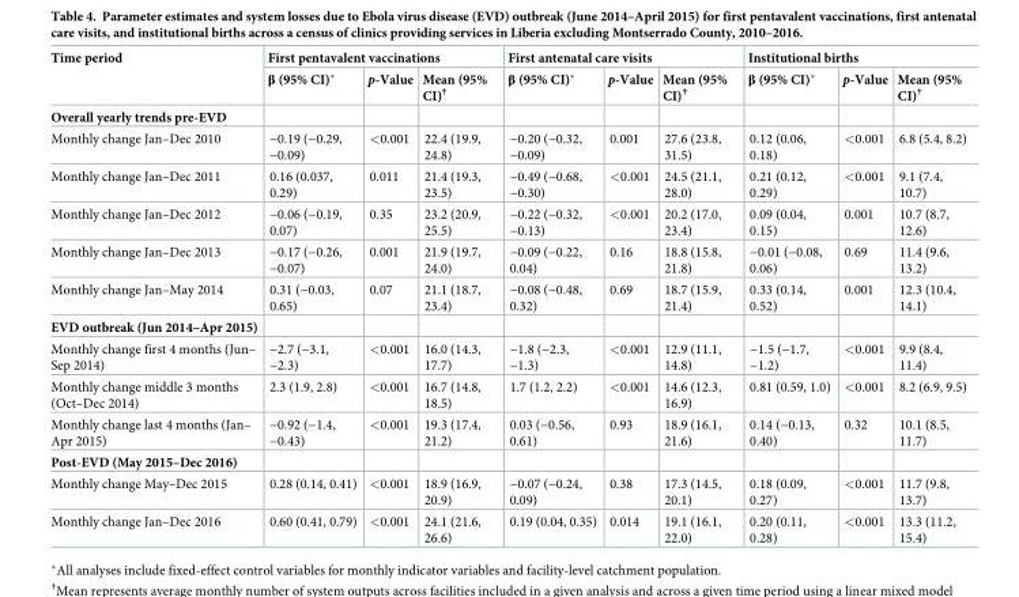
<table><thead><tr><td rowspan="2">Time period</td><td colspan="3">First pentavalent vaccinations</td><td colspan="3">First antenatal care visits</td><td colspan="3">Institutional births</td></tr><tr><td>β (95% CI)*</td><td>p-Value</td><td>Mean (95% CI)<sup>†</sup></td><td>β (95% CI)*</td><td>p-Value</td><td>Mean (95% CI)<sup>†</sup></td><td>β (95% CI)*</td><td>p-Value</td><td>Mean (95% CI)<sup>†</sup></td></tr></thead><tbody><tr><td colspan="10">Overall yearly trends pre-EVD</td></tr><tr><td>Monthly change Jan–Dec 2010</td><td>−0.19 (−0.29, −0.09)</td><td>&lt;0.001</td><td>22.4 (19.9, 24.8)</td><td>−0.20 (−0.32, −0.09)</td><td>0.001</td><td>27.6 (23.8, 31.5)</td><td>0.12 (0.06, 0.18)</td><td>&lt;0.001</td><td>6.8 (5.4, 8.2)</td></tr><tr><td>Monthly change Jan–Dec 2011</td><td>0.16 (0.037, 0.29)</td><td>0.011</td><td>21.4 (19.3, 23.5)</td><td>−0.49 (−0.68, −0.30)</td><td>&lt;0.001</td><td>24.5 (21.1, 28.0)</td><td>0.21 (0.12, 0.29)</td><td>&lt;0.001</td><td>9.1 (7.4, 10.7)</td></tr><tr><td>Monthly change Jan–Dec 2012</td><td>−0.06 (−0.19, 0.07)</td><td>0.35</td><td>23.2 (20.9, 25.5)</td><td>−0.22 (−0.32, −0.13)</td><td>&lt;0.001</td><td>20.2 (17.0, 23.4)</td><td>0.09 (0.04, 0.15)</td><td>0.001</td><td>10.7 (8.7, 12.6)</td></tr><tr><td>Monthly change Jan–Dec 2013</td><td>−0.17 (−0.26, −0.07)</td><td>0.001</td><td>21.9 (19.7, 24.0)</td><td>−0.09 (−0.22, 0.04)</td><td>0.16</td><td>18.8 (15.8, 21.8)</td><td>−0.01 (−0.08, 0.06)</td><td>0.69</td><td>11.4 (9.6, 13.2)</td></tr><tr><td>Monthly change Jan–May 2014</td><td>0.31 (−0.03, 0.65)</td><td>0.07</td><td>21.1 (18.7, 23.4)</td><td>−0.08 (−0.48, 0.32)</td><td>0.69</td><td>18.7 (15.9, 21.4)</td><td>0.33 (0.14, 0.52)</td><td>0.001</td><td>12.3 (10.4, 14.1)</td></tr><tr><td colspan="10">EVD outbreak (Jun 2014–Apr 2015)</td></tr><tr><td>Monthly change first 4 months (Jun– Sep 2014)</td><td>−2.7 (−3.1, −2.3)</td><td>&lt;0.001</td><td>16.0 (14.3, 17.7)</td><td>−1.8 (−2.3, −1.3)</td><td>&lt;0.001</td><td>12.9 (11.1, 14.8)</td><td>−1.5 (−1.7, −1.2)</td><td>&lt;0.001</td><td>9.9 (8.4, 11.4)</td></tr><tr><td>Monthly change middle 3 months (Oct–Dec 2014)</td><td>2.3 (1.9, 2.8)</td><td>&lt;0.001</td><td>16.7 (14.8, 18.5)</td><td>1.7 (1.2, 2.2)</td><td>&lt;0.001</td><td>14.6 (12.3, 16.9)</td><td>0.81 (0.59, 1.0)</td><td>&lt;0.001</td><td>8.2 (6.9, 9.5)</td></tr><tr><td>Monthly change last 4 months (Jan– Apr 2015)</td><td>−0.92 (−1.4, −0.43)</td><td>&lt;0.001</td><td>19.3 (17.4, 21.2)</td><td>0.03 (−0.56, 0.61)</td><td>0.93</td><td>18.9 (16.1, 21.6)</td><td>0.14 (−0.13, 0.40)</td><td>0.32</td><td>10.1 (8.5, 11.7)</td></tr><tr><td colspan="10">Post-EVD (May 2015–Dec 2016)</td></tr><tr><td>Monthly change May–Dec 2015</td><td>0.28 (0.14, 0.41)</td><td>&lt;0.001</td><td>18.9 (16.9, 20.9)</td><td>−0.07 (−0.24, 0.09)</td><td>0.38</td><td>17.3 (14.5, 20.1)</td><td>0.18 (0.09, 0.27)</td><td>&lt;0.001</td><td>11.7 (9.8, 13.7)</td></tr><tr><td>Monthly change Jan–Dec 2016</td><td>0.60 (0.41, 0.79)</td><td>&lt;0.001</td><td>24.1 (21.6, 26.6)</td><td>0.19 (0.04, 0.35)</td><td>0.014</td><td>19.1 (16.1, 22.0)</td><td>0.20 (0.11, 0.28)</td><td>&lt;0.001</td><td>13.3 (11.2, 15.4)</td></tr></tbody></table>